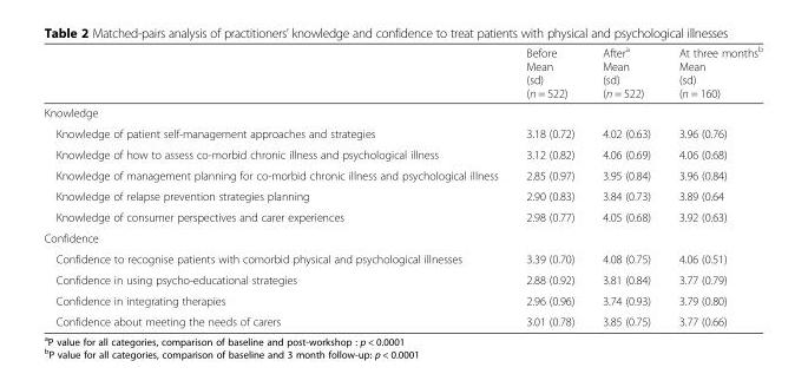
<table><thead><tr><td></td><td>Before Mean (sd) (n = 522)</td><td>After<sup>a</sup> Mean (sd) (n = 522)</td><td>At three months<sup>b</sup> Mean (sd) (n = 160)</td></tr></thead><tbody><tr><td colspan="4">Knowledge</td></tr><tr><td>Knowledge of patient self-management approaches and strategies</td><td>3.18 (0.72)</td><td>4.02 (0.63)</td><td>3.96 (0.76)</td></tr><tr><td>Knowledge of how to assess co-morbid chronic illness and psychological illness</td><td>3.12 (0.82)</td><td>4.06 (0.69)</td><td>4.06 (0.68)</td></tr><tr><td>Knowledge of management planning for co-morbid chronic illness and psychological illness</td><td>2.85 (0.97)</td><td>3.95 (0.84)</td><td>3.96 (0.84)</td></tr><tr><td>Knowledge of relapse prevention strategies planning</td><td>2.90 (0.83)</td><td>3.84 (0.73)</td><td>3.89 (0.64</td></tr><tr><td>Knowledge of consumer perspectives and carer experiences</td><td>2.98 (0.77)</td><td>4.05 (0.68)</td><td>3.92 (0.63)</td></tr><tr><td colspan="4">Confidence</td></tr><tr><td>Confidence to recognise patients with comorbid physical and psychological illnesses</td><td>3.39 (0.70)</td><td>4.08 (0.75)</td><td>4.06 (0.51)</td></tr><tr><td>Confidence in using psycho-educational strategies</td><td>2.88 (0.92)</td><td>3.81 (0.84)</td><td>3.77 (0.79)</td></tr><tr><td>Confidence in integrating therapies</td><td>2.96 (0.96)</td><td>3.74 (0.93)</td><td>3.79 (0.80)</td></tr><tr><td>Confidence about meeting the needs of carers</td><td>3.01 (0.78)</td><td>3.85 (0.75)</td><td>3.77 (0.66)</td></tr></tbody></table>